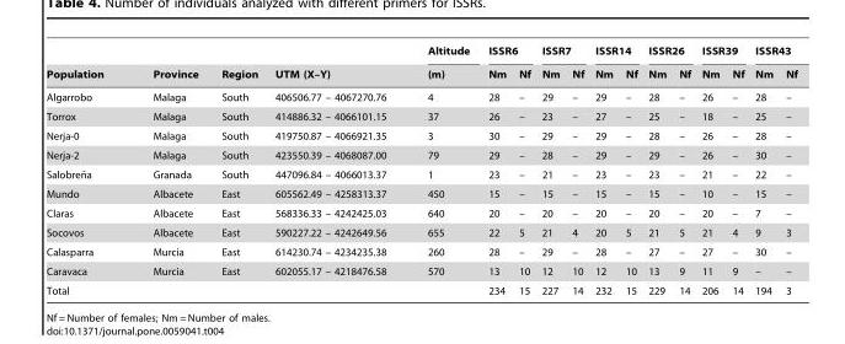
<table><thead><tr><td rowspan="2">Population</td><td rowspan="2">Province</td><td rowspan="2">Region</td><td rowspan="2">UTM (X–Y)</td><td rowspan="2">Altitude (m)</td><td colspan="2">ISSR6</td><td colspan="2">ISSR7</td><td colspan="2">ISSR14</td><td colspan="2">ISSR26</td><td colspan="2">ISSR39</td><td colspan="2">ISSR43</td></tr><tr><td>Nm</td><td>Nf</td><td>Nm</td><td>Nf</td><td>Nm</td><td>Nf</td><td>Nm</td><td>Nf</td><td>Nm</td><td>Nf</td><td>Nm</td><td>Nf</td></tr></thead><tbody><tr><td>Algarrobo</td><td>Malaga</td><td>South</td><td>406506.77 – 4067270.76</td><td>4</td><td>28</td><td>–</td><td>29</td><td>–</td><td>29</td><td>–</td><td>28</td><td>–</td><td>26</td><td>–</td><td>28</td><td>–</td></tr><tr><td>Torrox</td><td>Malaga</td><td>South</td><td>414886.32 – 4066101.15</td><td>37</td><td>26</td><td>–</td><td>23</td><td>–</td><td>27</td><td>–</td><td>25</td><td>–</td><td>18</td><td>–</td><td>25</td><td>–</td></tr><tr><td>Nerja-0</td><td>Malaga</td><td>South</td><td>419750.87 – 4066921.35</td><td>3</td><td>30</td><td>–</td><td>29</td><td>–</td><td>29</td><td>–</td><td>28</td><td>–</td><td>26</td><td>–</td><td>28</td><td>–</td></tr><tr><td>Nerja-2</td><td>Malaga</td><td>South</td><td>423550.39 – 4068087.00</td><td>79</td><td>29</td><td>–</td><td>28</td><td>–</td><td>29</td><td>–</td><td>29</td><td>–</td><td>26</td><td>–</td><td>30</td><td>–</td></tr><tr><td>Salobren˜a</td><td>Granada</td><td>South</td><td>447096.84 – 4066013.37</td><td>1</td><td>23</td><td>–</td><td>21</td><td>–</td><td>23</td><td>–</td><td>23</td><td>–</td><td>21</td><td>–</td><td>22</td><td>–</td></tr><tr><td>Mundo</td><td>Albacete</td><td>East</td><td>605562.49 – 4258313.37</td><td>450</td><td>15</td><td>–</td><td>15</td><td>–</td><td>15</td><td>–</td><td>15</td><td>–</td><td>10</td><td>–</td><td>15</td><td>–</td></tr><tr><td>Claras</td><td>Albacete</td><td>East</td><td>568336.33 – 4242425.03</td><td>640</td><td>20</td><td>–</td><td>20</td><td>–</td><td>20</td><td>–</td><td>20</td><td>–</td><td>20</td><td>–</td><td>7</td><td>–</td></tr><tr><td>Socovos</td><td>Albacete</td><td>East</td><td>590227.22 – 4242649.56</td><td>655</td><td>22</td><td>5</td><td>21</td><td>4</td><td>20</td><td>5</td><td>21</td><td>5</td><td>21</td><td>4</td><td>9</td><td>3</td></tr><tr><td>Calasparra</td><td>Murcia</td><td>East</td><td>614230.74 – 4234235.38</td><td>260</td><td>28</td><td>–</td><td>29</td><td>–</td><td>28</td><td>–</td><td>27</td><td>–</td><td>27</td><td>–</td><td>30</td><td>–</td></tr><tr><td>Caravaca</td><td>Murcia</td><td>East</td><td>602055.17 – 4218476.58</td><td>570</td><td>13</td><td>10</td><td>12</td><td>10</td><td>12</td><td>10</td><td>13</td><td>9</td><td>11</td><td>9</td><td>–</td><td>–</td></tr><tr><td>Total</td><td></td><td></td><td></td><td></td><td>234</td><td>15</td><td>227</td><td>14</td><td>232</td><td>15</td><td>229</td><td>14</td><td>206</td><td>14</td><td>194</td><td>3</td></tr></tbody></table>